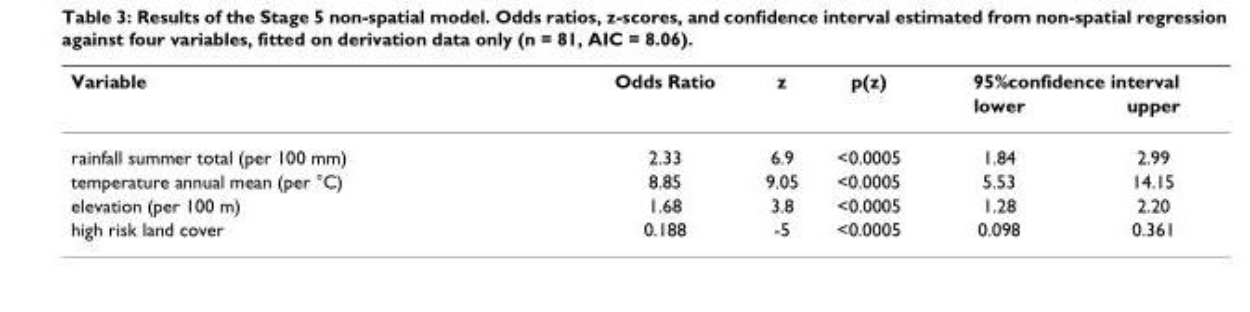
<table><thead><tr><td rowspan="2">Variable</td><td rowspan="2">Odds Ratio</td><td rowspan="2">z</td><td rowspan="2">p(z)</td><td colspan="2">95%confidence interval</td></tr><tr><td>lower</td><td>upper</td></tr></thead><tbody><tr><td>rainfall summer total (per 100 mm)</td><td>2.33</td><td>6.9</td><td>&lt;0.0005</td><td>1.84</td><td>2.99</td></tr><tr><td>temperature annual mean (per °C)</td><td>8.85</td><td>9.05</td><td>&lt;0.0005</td><td>5.53</td><td>14.15</td></tr><tr><td>elevation (per 100 m)</td><td>1.68</td><td>3.8</td><td>&lt;0.0005</td><td>1.28</td><td>2.20</td></tr><tr><td>high risk land cover</td><td>0.188</td><td>-5</td><td>&lt;0.0005</td><td>0.098</td><td>0.361</td></tr></tbody></table>